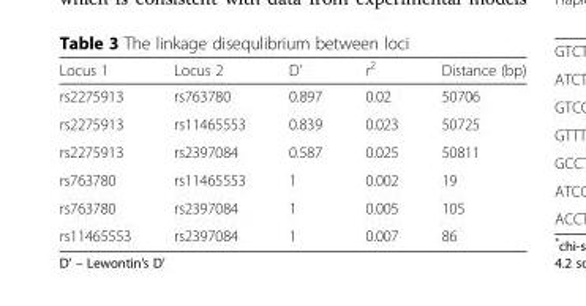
<table><thead><tr><td>Locus 1</td><td>Locus 2</td><td>D’</td><td>r<sup>2</sup></td><td>Distance (bp)</td></tr></thead><tbody><tr><td>rs2275913</td><td>rs763780</td><td>0.897</td><td>0.02</td><td>50706</td></tr><tr><td>rs2275913</td><td>rs11465553</td><td>0.839</td><td>0.023</td><td>50725</td></tr><tr><td>rs2275913</td><td>rs2397084</td><td>0.587</td><td>0.025</td><td>50811</td></tr><tr><td>rs763780</td><td>rs11465553</td><td>1</td><td>0.002</td><td>19</td></tr><tr><td>rs763780</td><td>rs2397084</td><td>1</td><td>0.005</td><td>105</td></tr><tr><td>rs11465553</td><td>rs2397084</td><td>1</td><td>0.007</td><td>86</td></tr></tbody></table>